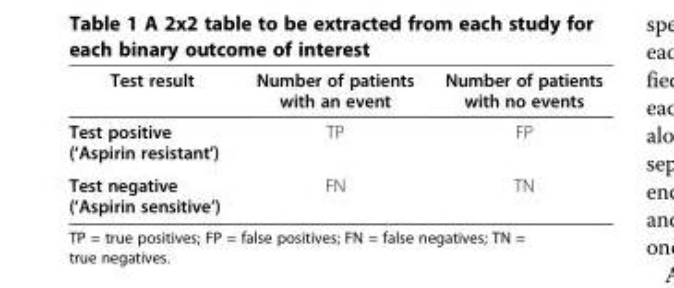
<table><thead><tr><td>Test result</td><td>Number of patients with an event</td><td>Number of patients with no events</td></tr></thead><tbody><tr><td>Test positive (‘Aspirin resistant’)</td><td>TP</td><td>FP</td></tr><tr><td>Test negative (‘Aspirin sensitive’)</td><td>FN</td><td>TN</td></tr></tbody></table>